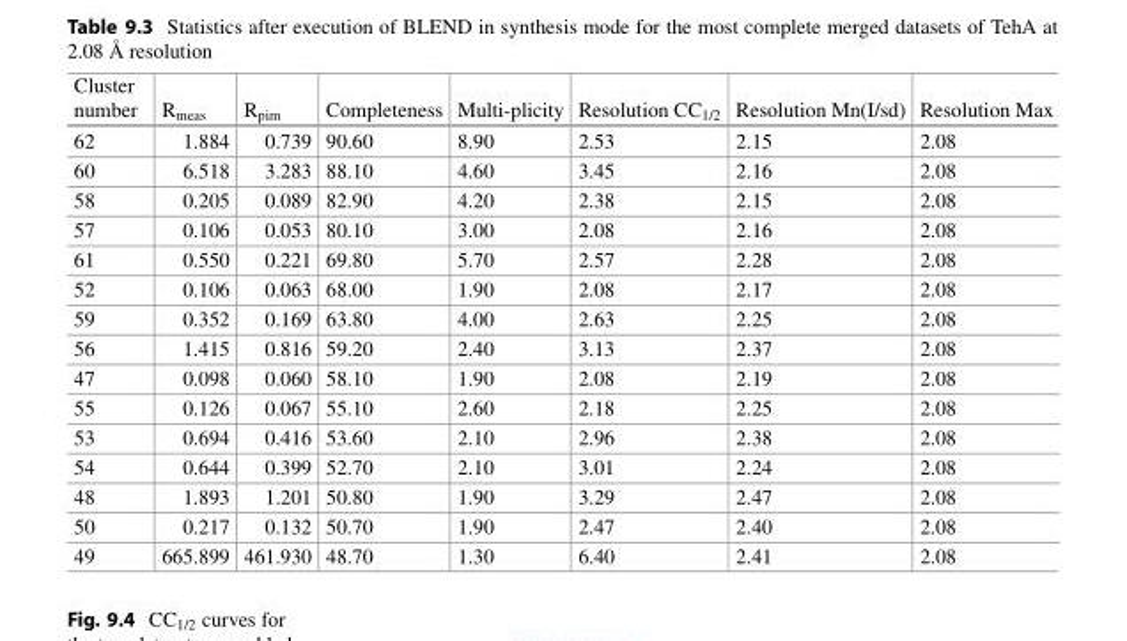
<table><thead><tr><td>Cluster number</td><td>R<sub>meas</sub></td><td>R<sub>pim</sub></td><td>Completeness</td><td>Multi-plicity</td><td>Resolution CC<sub>1/2</sub></td><td>Resolution Mn(I/sd)</td><td>Resolution Max</td></tr></thead><tbody><tr><td>62</td><td>1.884</td><td>0.739</td><td>90.60</td><td>8.90</td><td>2.53</td><td>2.15</td><td>2.08</td></tr><tr><td>60</td><td>6.518</td><td>3.283</td><td>88.10</td><td>4.60</td><td>3.45</td><td>2.16</td><td>2.08</td></tr><tr><td>58</td><td>0.205</td><td>0.089</td><td>82.90</td><td>4.20</td><td>2.38</td><td>2.15</td><td>2.08</td></tr><tr><td>57</td><td>0.106</td><td>0.053</td><td>80.10</td><td>3.00</td><td>2.08</td><td>2.16</td><td>2.08</td></tr><tr><td>61</td><td>0.550</td><td>0.221</td><td>69.80</td><td>5.70</td><td>2.57</td><td>2.28</td><td>2.08</td></tr><tr><td>52</td><td>0.106</td><td>0.063</td><td>68.00</td><td>1.90</td><td>2.08</td><td>2.17</td><td>2.08</td></tr><tr><td>59</td><td>0.352</td><td>0.169</td><td>63.80</td><td>4.00</td><td>2.63</td><td>2.25</td><td>2.08</td></tr><tr><td>56</td><td>1.415</td><td>0.816</td><td>59.20</td><td>2.40</td><td>3.13</td><td>2.37</td><td>2.08</td></tr><tr><td>47</td><td>0.098</td><td>0.060</td><td>58.10</td><td>1.90</td><td>2.08</td><td>2.19</td><td>2.08</td></tr><tr><td>55</td><td>0.126</td><td>0.067</td><td>55.10</td><td>2.60</td><td>2.18</td><td>2.25</td><td>2.08</td></tr><tr><td>53</td><td>0.694</td><td>0.416</td><td>53.60</td><td>2.10</td><td>2.96</td><td>2.38</td><td>2.08</td></tr><tr><td>54</td><td>0.644</td><td>0.399</td><td>52.70</td><td>2.10</td><td>3.01</td><td>2.24</td><td>2.08</td></tr><tr><td>48</td><td>1.893</td><td>1.201</td><td>50.80</td><td>1.90</td><td>3.29</td><td>2.47</td><td>2.08</td></tr><tr><td>50</td><td>0.217</td><td>0.132</td><td>50.70</td><td>1.90</td><td>2.47</td><td>2.40</td><td>2.08</td></tr><tr><td>49</td><td>665.899</td><td>461.930</td><td>48.70</td><td>1.30</td><td>6.40</td><td>2.41</td><td>2.08</td></tr></tbody></table>